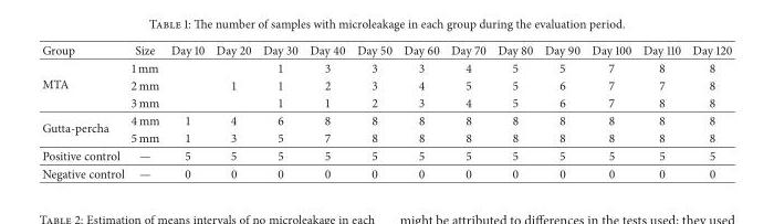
<table><thead><tr><td>Group</td><td>Size</td><td>Day 10</td><td>Day 20</td><td>Day 30</td><td>Day 40</td><td>Day 50</td><td>Day 60</td><td>Day 70</td><td>Day 80</td><td>Day 90</td><td>Day 100</td><td>Day 110</td><td>Day 120</td></tr></thead><tbody><tr><td rowspan="3">MTA</td><td>1 mm</td><td></td><td></td><td>1</td><td>3</td><td>3</td><td>3</td><td>4</td><td>5</td><td>5</td><td>7</td><td>8</td><td>8</td></tr><tr><td>2 mm</td><td></td><td>1</td><td>1</td><td>2</td><td>3</td><td>4</td><td>5</td><td>5</td><td>6</td><td>7</td><td>7</td><td>8</td></tr><tr><td>3 mm</td><td></td><td></td><td>1</td><td>1</td><td>2</td><td>3</td><td>4</td><td>5</td><td>6</td><td>7</td><td>8</td><td>8</td></tr><tr><td rowspan="2">Gutta-percha</td><td>4 mm</td><td>1</td><td>4</td><td>6</td><td>8</td><td>8</td><td>8</td><td>8</td><td>8</td><td>8</td><td>8</td><td>8</td><td>8</td></tr><tr><td>5 mm</td><td>1</td><td>3</td><td>5</td><td>7</td><td>8</td><td>8</td><td>8</td><td>8</td><td>8</td><td>8</td><td>8</td><td>8</td></tr><tr><td>Positive control</td><td>—</td><td>5</td><td>5</td><td>5</td><td>5</td><td>5</td><td>5</td><td>5</td><td>5</td><td>5</td><td>5</td><td>5</td><td>5</td></tr><tr><td>Negative control</td><td>—</td><td>0</td><td>0</td><td>0</td><td>0</td><td>0</td><td>0</td><td>0</td><td>0</td><td>0</td><td>0</td><td>0</td><td>0</td></tr></tbody></table>